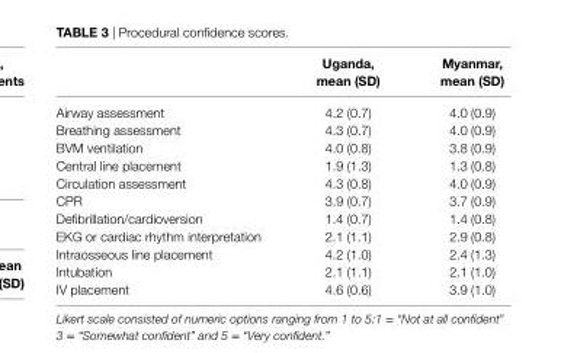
<table><thead><tr><td></td><td>Uganda, mean (sD)</td><td>Myanmar, mean (sD)</td></tr></thead><tbody><tr><td>Airway assessment</td><td>4.2 (0.7)</td><td>4.0 (0.9)</td></tr><tr><td>Breathing assessment</td><td>4.3 (0.7)</td><td>4.0 (0.9)</td></tr><tr><td>BVM ventilation</td><td>4.0 (0.8)</td><td>3.8 (0.9)</td></tr><tr><td>Central line placement</td><td>1.9 (1.3)</td><td>1.3 (0.8)</td></tr><tr><td>Circulation assessment</td><td>4.3 (0.8)</td><td>4.0 (0.9)</td></tr><tr><td>CPR</td><td>3.9 (0.7)</td><td>3.7 (0.9)</td></tr><tr><td>Defibrillation/cardioversion</td><td>1.4 (0.7)</td><td>1.4 (0.8)</td></tr><tr><td>EKG or cardiac rhythm interpretation</td><td>2.1 (1.1)</td><td>2.9 (0.8)</td></tr><tr><td>Intraosseous line placement</td><td>4.2 (1.0)</td><td>2.4 (1.3)</td></tr><tr><td>Intubation</td><td>2.1 (1.1)</td><td>2.1 (1.0)</td></tr><tr><td>IV placement</td><td>4.6 (0.6)</td><td>3.9 (1.0)</td></tr></tbody></table>